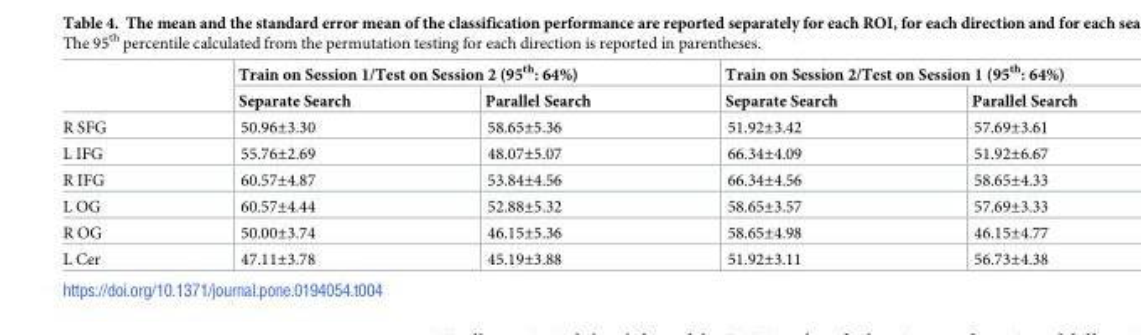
<table><thead><tr><td rowspan="2"></td><td colspan="2">Train on Session 1/Test on Session 2 (95<sup>th</sup>: 64%)</td><td colspan="2">Train on Session 2/Test on Session 1 (95<sup>th</sup>: 64%)</td></tr><tr><td>Separate Search</td><td>Parallel Search</td><td>Separate Search</td><td>Parallel Search</td></tr></thead><tbody><tr><td>R SFG</td><td>50.96±3.30</td><td>58.65±5.36</td><td>51.92±3.42</td><td>57.69±3.61</td></tr><tr><td>L IFG</td><td>55.76±2.69</td><td>48.07±5.07</td><td>66.34±4.09</td><td>51.92±6.67</td></tr><tr><td>R IFG</td><td>60.57±4.87</td><td>53.84±4.56</td><td>66.34±4.56</td><td>58.65±4.33</td></tr><tr><td>L OG</td><td>60.57±4.44</td><td>52.88±5.32</td><td>58.65±3.57</td><td>57.69±3.33</td></tr><tr><td>R OG</td><td>50.00±3.74</td><td>46.15±5.36</td><td>58.65±4.98</td><td>46.15±4.77</td></tr><tr><td>L Cer</td><td>47.11±3.78</td><td>45.19±3.88</td><td>51.92±3.11</td><td>56.73±4.38</td></tr></tbody></table>